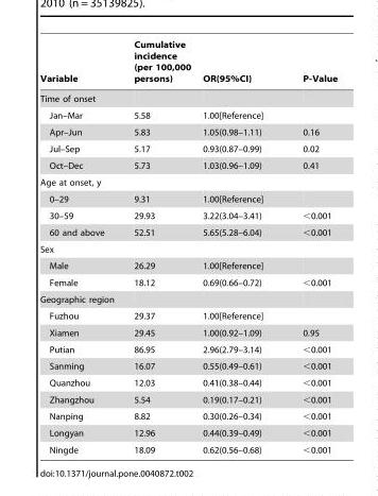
<table><thead><tr><td>Variable</td><td>Cumulative incidence (per 100,000 persons)</td><td>OR(95%CI)</td><td>P-Value</td></tr></thead><tbody><tr><td colspan="4">Time of onset</td></tr><tr><td>Jan–Mar</td><td>5.58</td><td>1.00[Reference]</td><td></td></tr><tr><td>Apr–Jun</td><td>5.83</td><td>1.05(0.98–1.11)</td><td>0.16</td></tr><tr><td>Jul–Sep</td><td>5.17</td><td>0.93(0.87–0.99)</td><td>0.02</td></tr><tr><td>Oct–Dec</td><td>5.73</td><td>1.03(0.96–1.09)</td><td>0.41</td></tr><tr><td colspan="4">Age at onset, y</td></tr><tr><td>0–29</td><td>9.31</td><td>1.00[Reference]</td><td></td></tr><tr><td>30–59</td><td>29.93</td><td>3.22(3.04–3.41)</td><td>&lt;0.001</td></tr><tr><td>60 and above</td><td>52.51</td><td>5.65(5.28–6.04)</td><td>&lt;0.001</td></tr><tr><td colspan="4">Sex</td></tr><tr><td>Male</td><td>26.29</td><td>1.00[Reference]</td><td></td></tr><tr><td>Female</td><td>18.12</td><td>0.69(0.66–0.72)</td><td>&lt;0.001</td></tr><tr><td colspan="4">Geographic region</td></tr><tr><td>Fuzhou</td><td>29.37</td><td>1.00[Reference]</td><td></td></tr><tr><td>Xiamen</td><td>29.45</td><td>1.00(0.92–1.09)</td><td>0.95</td></tr><tr><td>Putian</td><td>86.95</td><td>2.96(2.79–3.14)</td><td>&lt;0.001</td></tr><tr><td>Sanming</td><td>16.07</td><td>0.55(0.49–0.61)</td><td>&lt;0.001</td></tr><tr><td>Quanzhou</td><td>12.03</td><td>0.41(0.38–0.44)</td><td>&lt;0.001</td></tr><tr><td>Zhangzhou</td><td>5.54</td><td>0.19(0.17–0.21)</td><td>&lt;0.001</td></tr><tr><td>Nanping</td><td>8.82</td><td>0.30(0.26–0.34)</td><td>&lt;0.001</td></tr><tr><td>Longyan</td><td>12.96</td><td>0.44(0.39–0.49)</td><td>&lt;0.001</td></tr><tr><td>Ningde</td><td>18.09</td><td>0.62(0.56–0.68)</td><td>&lt;0.001</td></tr></tbody></table>